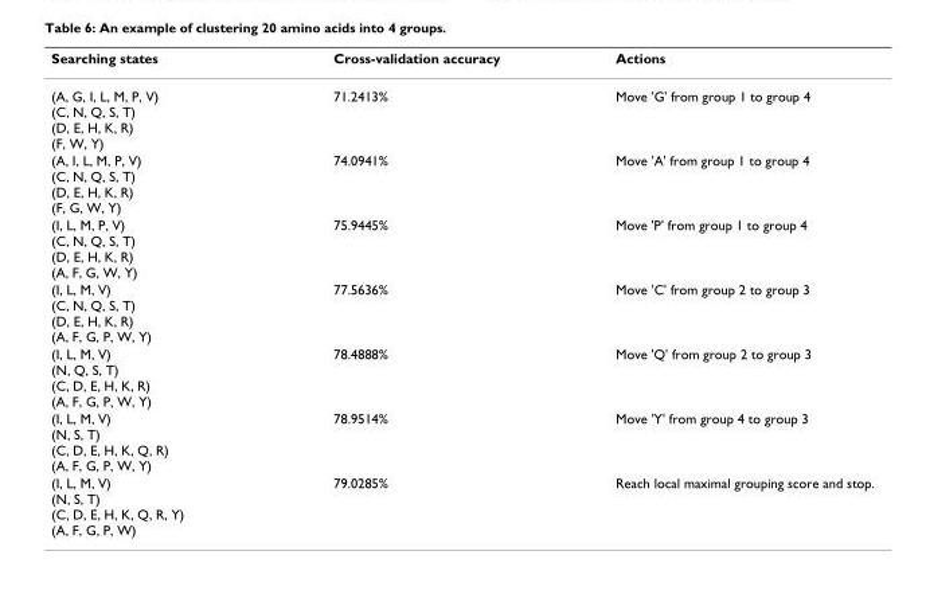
<table><thead><tr><td>Searching states</td><td>Cross-validation accuracy</td><td>Actions</td></tr></thead><tbody><tr><td>(A, G, I, L, M, P, V) (C, N, Q, S, T) (D, E, H, K, R) (F, W, Y)</td><td>71.2413%</td><td>Move &#x27;G&#x27; from group 1 to group 4</td></tr><tr><td>(A, I, L, M, P, V) (C, N, Q, S, T) (D, E, H, K, R) (F, G, W, Y)</td><td>74.0941%</td><td>Move &#x27;A&#x27; from group 1 to group 4</td></tr><tr><td>(I, L, M, P, V) (C, N, Q, S, T) (D, E, H, K, R) (A, F, G, W, Y)</td><td>75.9445%</td><td>Move &#x27;P&#x27; from group 1 to group 4</td></tr><tr><td>(I, L, M, V) (C, N, Q, S, T) (D, E, H, K, R) (A, F, G, P, W, Y)</td><td>77.5636%</td><td>Move &#x27;C&#x27; from group 2 to group 3</td></tr><tr><td>(I, L, M, V) (N, Q, S, T) (C, D, E, H, K, R) (A, F, G, P, W, Y)</td><td>78.4888%</td><td>Move &#x27;Q&#x27; from group 2 to group 3</td></tr><tr><td>(I, L, M, V) (N, S, T) (C, D, E, H, K, Q, R) (A, F, G, P, W, Y)</td><td>78.9514%</td><td>Move &#x27;Y&#x27; from group 4 to group 3</td></tr><tr><td>(I, L, M, V) (N, S, T) (C, D, E, H, K, Q, R, Y) (A, F, G, P, W)</td><td>79.0285%</td><td>Reach local maximal grouping score and stop.</td></tr></tbody></table>